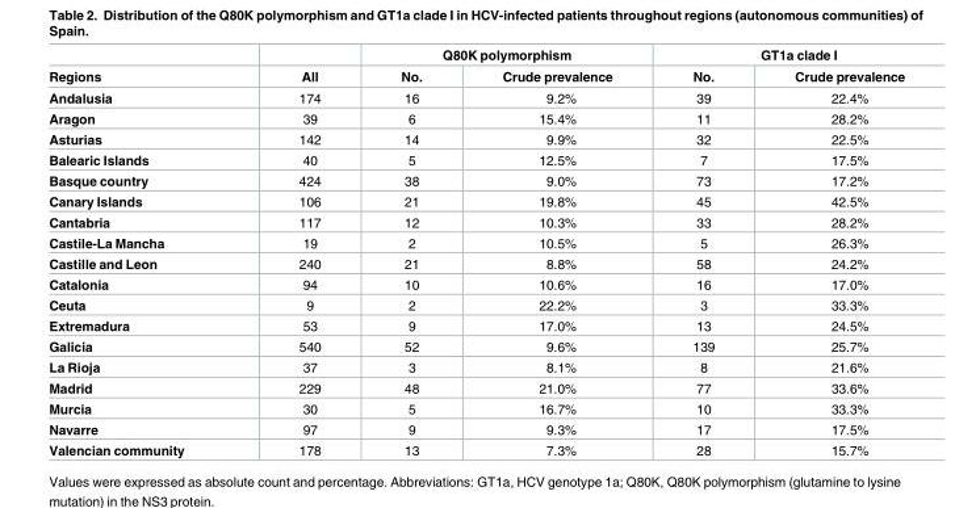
<table><thead><tr><td rowspan="2">Regions</td><td rowspan="2">All</td><td colspan="2">Q80K polymorphism</td><td colspan="2">GT1a clade I</td></tr><tr><td>No.</td><td>Crude prevalence</td><td>No.</td><td>Crude prevalence</td></tr></thead><tbody><tr><td>Andalusia</td><td>174</td><td>16</td><td>9.2%</td><td>39</td><td>22.4%</td></tr><tr><td>Aragon</td><td>39</td><td>6</td><td>15.4%</td><td>11</td><td>28.2%</td></tr><tr><td>Asturias</td><td>142</td><td>14</td><td>9.9%</td><td>32</td><td>22.5%</td></tr><tr><td>Balearic Islands</td><td>40</td><td>5</td><td>12.5%</td><td>7</td><td>17.5%</td></tr><tr><td>Basque country</td><td>424</td><td>38</td><td>9.0%</td><td>73</td><td>17.2%</td></tr><tr><td>Canary Islands</td><td>106</td><td>21</td><td>19.8%</td><td>45</td><td>42.5%</td></tr><tr><td>Cantabria</td><td>117</td><td>12</td><td>10.3%</td><td>33</td><td>28.2%</td></tr><tr><td>Castile-La Mancha</td><td>19</td><td>2</td><td>10.5%</td><td>5</td><td>26.3%</td></tr><tr><td>Castille and Leon</td><td>240</td><td>21</td><td>8.8%</td><td>58</td><td>24.2%</td></tr><tr><td>Catalonia</td><td>94</td><td>10</td><td>10.6%</td><td>16</td><td>17.0%</td></tr><tr><td>Ceuta</td><td>9</td><td>2</td><td>22.2%</td><td>3</td><td>33.3%</td></tr><tr><td>Extremadura</td><td>53</td><td>9</td><td>17.0%</td><td>13</td><td>24.5%</td></tr><tr><td>Galicia</td><td>540</td><td>52</td><td>9.6%</td><td>139</td><td>25.7%</td></tr><tr><td>La Rioja</td><td>37</td><td>3</td><td>8.1%</td><td>8</td><td>21.6%</td></tr><tr><td>Madrid</td><td>229</td><td>48</td><td>21.0%</td><td>77</td><td>33.6%</td></tr><tr><td>Murcia</td><td>30</td><td>5</td><td>16.7%</td><td>10</td><td>33.3%</td></tr><tr><td>Navarre</td><td>97</td><td>9</td><td>9.3%</td><td>17</td><td>17.5%</td></tr><tr><td>Valencian community</td><td>178</td><td>13</td><td>7.3%</td><td>28</td><td>15.7%</td></tr></tbody></table>